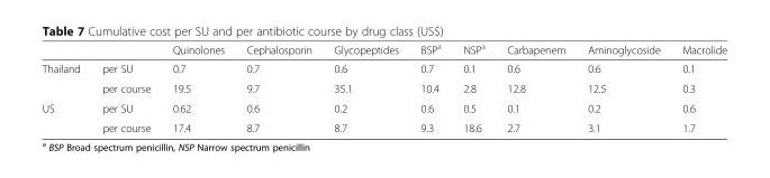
<table><thead><tr><td></td><td></td><td>Quinolones</td><td>Cephalosporin</td><td>Glycopeptides</td><td>BSP<sup>a</sup></td><td>NSP<sup>a</sup></td><td>Carbapenem</td><td>Aminoglycoside</td><td>Macrolide</td></tr></thead><tbody><tr><td rowspan="2">Thailand</td><td>per SU</td><td>0.7</td><td>0.7</td><td>0.6</td><td>0.7</td><td>0.1</td><td>0.6</td><td>0.6</td><td>0.1</td></tr><tr><td>per course</td><td>19.5</td><td>9.7</td><td>35.1</td><td>10.4</td><td>2.8</td><td>12.8</td><td>12.5</td><td>0.3</td></tr><tr><td rowspan="2">US</td><td>per SU</td><td>0.62</td><td>0.6</td><td>0.2</td><td>0.6</td><td>0.5</td><td>0.1</td><td>0.2</td><td>0.6</td></tr><tr><td>per course</td><td>17.4</td><td>8.7</td><td>8.7</td><td>9.3</td><td>18.6</td><td>2.7</td><td>3.1</td><td>1.7</td></tr></tbody></table>